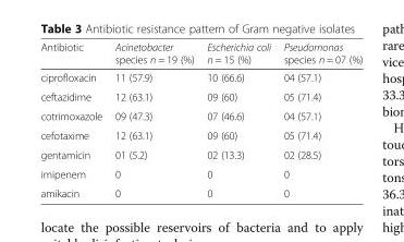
<table><thead><tr><td>Antibiotic</td><td>Acinetobacter species n = 19 (%)</td><td>Escherichia coli n = 15 (%)</td><td>Pseudomonas species n = 07 (%)</td></tr></thead><tbody><tr><td>ciprofloxacin</td><td>11 (57.9)</td><td>10 (66.6)</td><td>04 (57.1)</td></tr><tr><td>ceftazidime</td><td>12 (63.1)</td><td>09 (60)</td><td>05 (71.4)</td></tr><tr><td>cotrimoxazole</td><td>09 (47.3)</td><td>07 (46.6)</td><td>04 (57.1)</td></tr><tr><td>cefotaxime</td><td>12 (63.1)</td><td>09 (60)</td><td>05 (71.4)</td></tr><tr><td>gentamicin</td><td>01 (5.2)</td><td>02 (13.3)</td><td>02 (28.5)</td></tr><tr><td>imipenem</td><td>0</td><td>0</td><td>0</td></tr><tr><td>amikacin</td><td>0</td><td>0</td><td>0</td></tr></tbody></table>